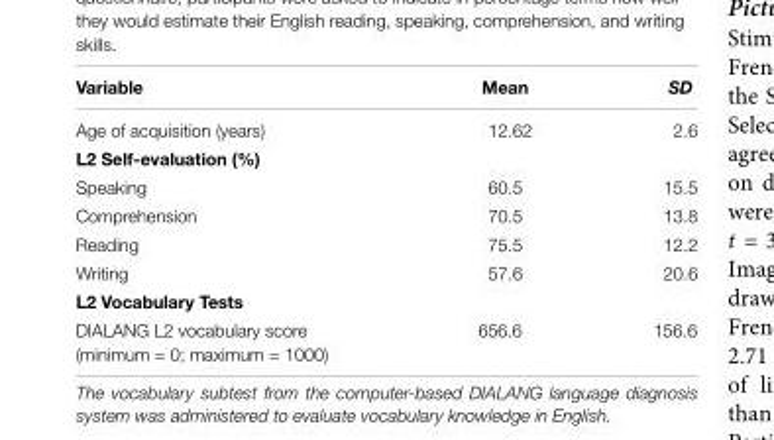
<table><thead><tr><td>Variable</td><td>Mean</td><td>SD</td></tr></thead><tbody><tr><td>Age of acquisition (years)</td><td>12.62</td><td>2.6</td></tr><tr><td colspan="3">L2 Self-evaluation (%)</td></tr><tr><td>Speaking</td><td>60.5</td><td>15.5</td></tr><tr><td>Comprehension</td><td>70.5</td><td>13.8</td></tr><tr><td>Reading</td><td>75.5</td><td>12.2</td></tr><tr><td>Writing</td><td>57.6</td><td>20.6</td></tr><tr><td colspan="3">L2 Vocabulary Tests</td></tr><tr><td>DIALANG L2 vocabulary score (minimum = 0; maximum = 1000)</td><td>656.6</td><td>156.6</td></tr></tbody></table>